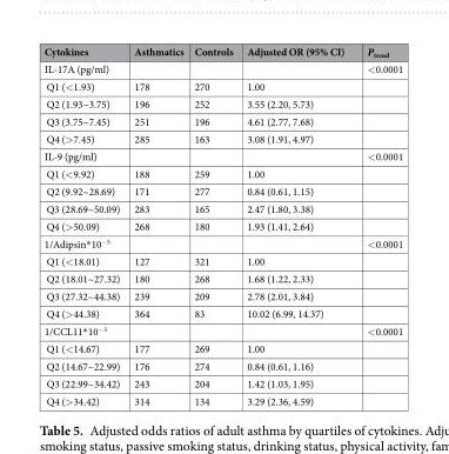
<table><thead><tr><td>Cytokines</td><td>Asthmatics</td><td>Controls</td><td>Adjusted OR (95% CI)</td><td>P<sub>trend</sub></td></tr></thead><tbody><tr><td>IL-17A (pg/ml)</td><td></td><td></td><td></td><td>&lt;0.0001</td></tr><tr><td>Q1 (&lt;1.93)</td><td>178</td><td>270</td><td>1.00</td><td></td></tr><tr><td>Q2 (1.93~3.75)</td><td>196</td><td>252</td><td>3.55 (2.20, 5.73)</td><td></td></tr><tr><td>Q3 (3.75~7.45)</td><td>251</td><td>196</td><td>4.61 (2.77, 7.68)</td><td></td></tr><tr><td>Q4 (&gt;7.45)</td><td>285</td><td>163</td><td>3.08 (1.91, 4.97)</td><td></td></tr><tr><td>IL-9 (pg/ml)</td><td></td><td></td><td></td><td>&lt;0.0001</td></tr><tr><td>Q1 (&lt;9.92)</td><td>188</td><td>259</td><td>1.00</td><td></td></tr><tr><td>Q2 (9.92~28.69)</td><td>171</td><td>277</td><td>0.84 (0.61, 1.15)</td><td></td></tr><tr><td>Q3 (28.69~50.09)</td><td>283</td><td>165</td><td>2.47 (1.80, 3.38)</td><td></td></tr><tr><td>Q4 (&gt;50.09)</td><td>268</td><td>180</td><td>1.93 (1.41, 2.64)</td><td></td></tr><tr><td>1/Adipsin*10<sup>−5</sup></td><td></td><td></td><td></td><td>&lt;0.0001</td></tr><tr><td>Q1 (&lt;18.01)</td><td>127</td><td>321</td><td>1.00</td><td></td></tr><tr><td>Q2 (18.01~27.32)</td><td>180</td><td>268</td><td>1.68 (1.22, 2.33)</td><td></td></tr><tr><td>Q3 (27.32~44.38)</td><td>239</td><td>209</td><td>2.78 (2.01, 3.84)</td><td></td></tr><tr><td>Q4 (&gt;44.38)</td><td>364</td><td>83</td><td>10.02 (6.99, 14.37)</td><td></td></tr><tr><td>1/CCL11*10<sup>−3</sup></td><td></td><td></td><td></td><td>&lt;0.0001</td></tr><tr><td>Q1 (&lt;14.67)</td><td>177</td><td>269</td><td>1.00</td><td></td></tr><tr><td>Q2 (14.67~22.99)</td><td>176</td><td>274</td><td>0.84 (0.61, 1.16)</td><td></td></tr><tr><td>Q3 (22.99~34.42)</td><td>243</td><td>204</td><td>1.42 (1.03, 1.95)</td><td></td></tr><tr><td>Q4 (&gt;34.42)</td><td>314</td><td>134</td><td>3.29 (2.36, 4.59)</td><td></td></tr></tbody></table>